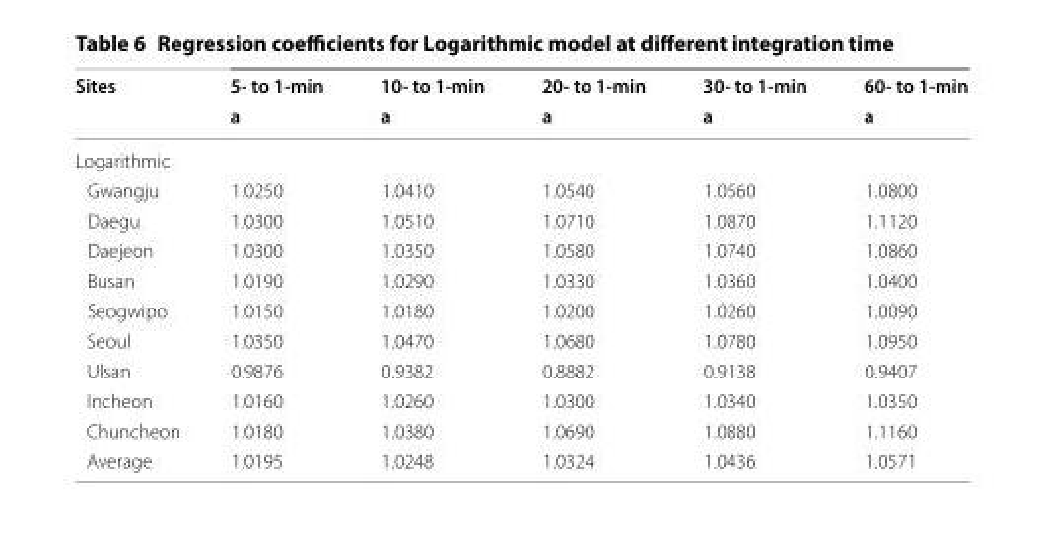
<table><thead><tr><td rowspan="2">Sites</td><td rowspan="2">5‑ to 1‑min a</td><td rowspan="2">10‑ to 1‑min a</td><td rowspan="2">20‑ to 1‑min a</td><td rowspan="2">30‑ to 1‑min a</td><td rowspan="2">60‑ to 1‑min a</td></tr><tr></tr></thead><tbody><tr><td colspan="6">Logarithmic</td></tr><tr><td>Gwangju</td><td>1.0250</td><td>1.0410</td><td>1.0540</td><td>1.0560</td><td>1.0800</td></tr><tr><td>Daegu</td><td>1.0300</td><td>1.0510</td><td>1.0710</td><td>1.0870</td><td>1.1120</td></tr><tr><td>Daejeon</td><td>1.0300</td><td>1.0350</td><td>1.0580</td><td>1.0740</td><td>1.0860</td></tr><tr><td>Busan</td><td>1.0190</td><td>1.0290</td><td>1.0330</td><td>1.0360</td><td>1.0400</td></tr><tr><td>Seogwipo</td><td>1.0150</td><td>1.0180</td><td>1.0200</td><td>1.0260</td><td>1.0090</td></tr><tr><td>Seoul</td><td>1.0350</td><td>1.0470</td><td>1.0680</td><td>1.0780</td><td>1.0950</td></tr><tr><td>Ulsan</td><td>0.9876</td><td>0.9382</td><td>0.8882</td><td>0.9138</td><td>0.9407</td></tr><tr><td>Incheon</td><td>1.0160</td><td>1.0260</td><td>1.0300</td><td>1.0340</td><td>1.0350</td></tr><tr><td>Chuncheon</td><td>1.0180</td><td>1.0380</td><td>1.0690</td><td>1.0880</td><td>1.1160</td></tr><tr><td>Average</td><td>1.0195</td><td>1.0248</td><td>1.0324</td><td>1.0436</td><td>1.0571</td></tr></tbody></table>